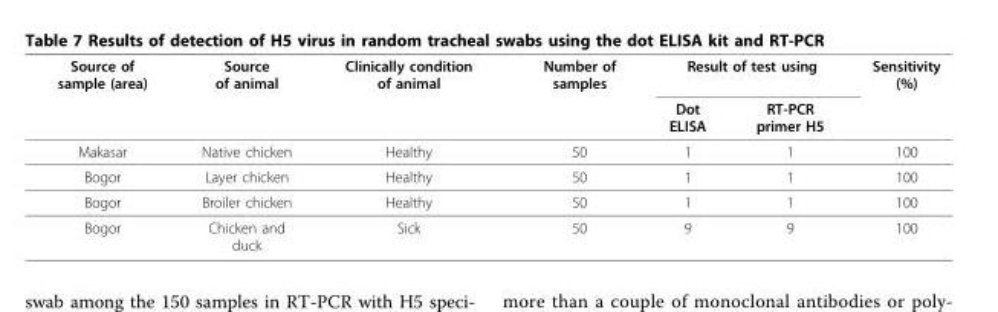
<table><thead><tr><td rowspan="2">Source of sample (area)</td><td rowspan="2">Source of animal</td><td rowspan="2">Clinically condition of animal</td><td rowspan="2">Number of samples</td><td colspan="2">Result of test using</td><td rowspan="2">Sensitivity (%)</td></tr><tr><td>Dot ELISA</td><td>RT-PCR primer H5</td></tr></thead><tbody><tr><td>Makasar</td><td>Native chicken</td><td>Healthy</td><td>50</td><td>1</td><td>1</td><td>100</td></tr><tr><td>Bogor</td><td>Layer chicken</td><td>Healthy</td><td>50</td><td>1</td><td>1</td><td>100</td></tr><tr><td>Bogor</td><td>Broiler chicken</td><td>Healthy</td><td>50</td><td>1</td><td>1</td><td>100</td></tr><tr><td>Bogor</td><td>Chicken and duck</td><td>Sick</td><td>50</td><td>9</td><td>9</td><td>100</td></tr></tbody></table>